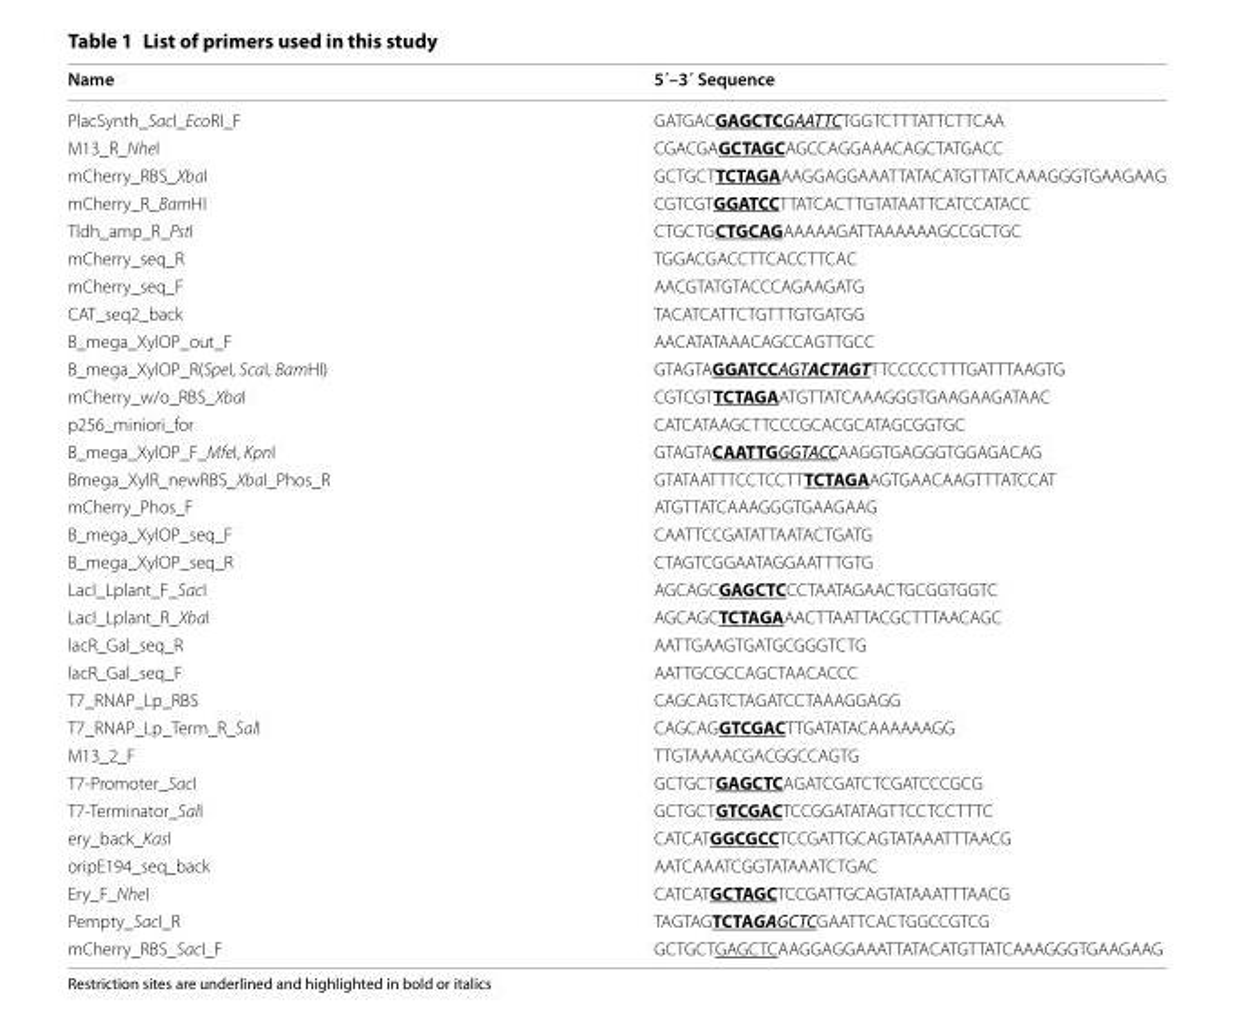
<table><thead><tr><td>Name</td><td>5´–3´ Sequence</td></tr></thead><tbody><tr><td>PlacSynth_SacI_EcoRI_F</td><td>GATGACGAGCTCGAATTCTGGTCTTTATTCTTCAA</td></tr><tr><td>M13_R_NheI</td><td>CGACGAGCTAGCAGCCAGGAAACAGCTATGACC</td></tr><tr><td>mCherry_RBS_XbaI</td><td>GCTGCTTCTAGAAAGGAGGAAATTATACATGTTATCAAAGGGTGAAGAAG</td></tr><tr><td>mCherry_R_BamHI</td><td>CGTCGTGGATCCTTATCACTTGTATAATTCATCCATACC</td></tr><tr><td>Tldh_amp_R_PstI</td><td>CTGCTGCTGCAGAAAAAGATTAAAAAAGCCGCTGC</td></tr><tr><td>mCherry_seq_R</td><td>TGGACGACCTTCACCTTCAC</td></tr><tr><td>mCherry_seq_F</td><td>AACGTATGTACCCAGAAGATG</td></tr><tr><td>CAT_seq2_back</td><td>TACATCATTCTGTTTGTGATGG</td></tr><tr><td>B_mega_XylOP_out_F</td><td>AACATATAAACAGCCAGTTGCC</td></tr><tr><td>B_mega_XylOP_R(SpeI, ScaI, BamHI)</td><td>GTAGTAGGATCCAGTACTAGTTTCCCCCTTTGATTTAAGTG</td></tr><tr><td>mCherry_w/o_RBS_XbaI</td><td>CGTCGTTCTAGAATGTTATCAAAGGGTGAAGAAGATAAC</td></tr><tr><td>p256_miniori_for</td><td>CATCATAAGCTTCCCGCACGCATAGCGGTGC</td></tr><tr><td>B_mega_XylOP_F_MfeI, KpnI</td><td>GTAGTACAATTGGGTACCAAGGTGAGGGTGGAGACAG</td></tr><tr><td>Bmega_XylR_newRBS_XbaI_Phos_R</td><td>GTATAATTTCCTCCTTTCTAGAAGTGAACAAGTTTATCCAT</td></tr><tr><td>mCherry_Phos_F</td><td>ATGTTATCAAAGGGTGAAGAAG</td></tr><tr><td>B_mega_XylOP_seq_F</td><td>CAATTCCGATATTAATACTGATG</td></tr><tr><td>B_mega_XylOP_seq_R</td><td>CTAGTCGGAATAGGAATTTGTG</td></tr><tr><td>LacI_Lplant_F_SacI</td><td>AGCAGCGAGCTCCCTAATAGAACTGCGGTGGTC</td></tr><tr><td>LacI_Lplant_R_XbaI</td><td>AGCAGCTCTAGAAACTTAATTACGCTTTAACAGC</td></tr><tr><td>lacR_Gal_seq_R</td><td>AATTGAAGTGATGCGGGTCTG</td></tr><tr><td>lacR_Gal_seq_F</td><td>AATTGCGCCAGCTAACACCC</td></tr><tr><td>T7_RNAP_Lp_RBS</td><td>CAGCAGTCTAGATCCTAAAGGAGG</td></tr><tr><td>T7_RNAP_Lp_Term_R_SalI</td><td>CAGCAGGTCGACTTGATATACAAAAAAGG</td></tr><tr><td>M13_2_F</td><td>TTGTAAAACGACGGCCAGTG</td></tr><tr><td>T7-Promoter_SacI</td><td>GCTGCTGAGCTCAGATCGATCTCGATCCCGCG</td></tr><tr><td>T7-Terminator_SalI</td><td>GCTGCTGTCGACTCCGGATATAGTTCCTCCTTTC</td></tr><tr><td>ery_back_KasI</td><td>CATCATGGCGCCTCCGATTGCAGTATAAATTTAACG</td></tr><tr><td>oripE194_seq_back</td><td>AATCAAATCGGTATAAATCTGAC</td></tr><tr><td>Ery_F_NheI</td><td>CATCATGCTAGCTCCGATTGCAGTATAAATTTAACG</td></tr><tr><td>Pempty_SacI_R</td><td>TAGTAGTCTAGAGCTCGAATTCACTGGCCGTCG</td></tr><tr><td>mCherry_RBS_SacI_F</td><td>GCTGCTGAGCTCAAGGAGGAAATTATACATGTTATCAAAGGGTGAAGAAG</td></tr></tbody></table>